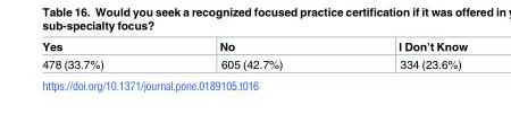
<table><thead><tr><td>Yes</td><td>No</td><td>I Don’t Know</td></tr></thead><tbody><tr><td>478 (33.7%)</td><td>605 (42.7%)</td><td>334 (23.6%)</td></tr></tbody></table>